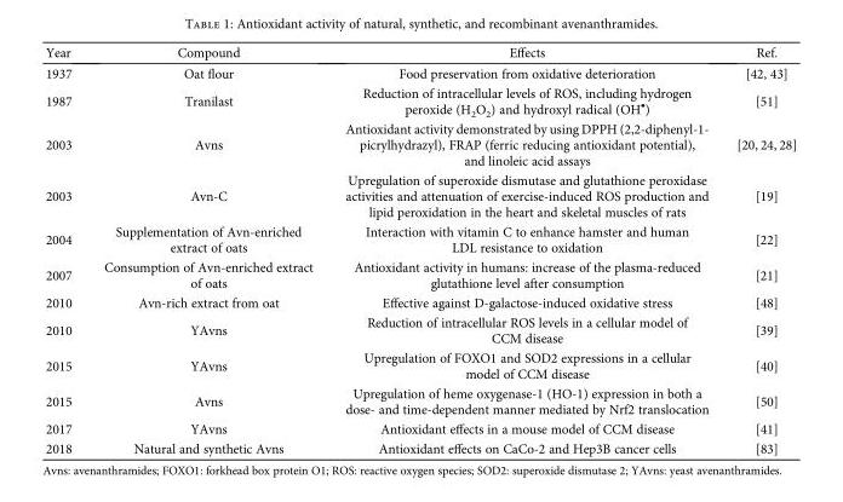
<table><thead><tr><td>Year</td><td>Compound</td><td>Effects</td><td>Ref.</td></tr></thead><tbody><tr><td>1937</td><td>Oat flour</td><td>Food preservation from oxidative deterioration</td><td>[42, 43]</td></tr><tr><td>1987</td><td>Tranilast</td><td>Reduction of intracellular levels of ROS, including hydrogen peroxide (H<sub>2</sub>O<sub>2</sub>) and hydroxyl radical (OH<sup>•</sup>)</td><td>[51]</td></tr><tr><td>2003</td><td>Avns</td><td>Antioxidant activity demonstrated by using DPPH (2,2-diphenyl-1- picrylhydrazyl), FRAP (ferric reducing antioxidant potential), and linoleic acid assays</td><td>[20, 24, 28]</td></tr><tr><td>2003</td><td>Avn-C</td><td>Upregulation of superoxide dismutase and glutathione peroxidase activities and attenuation of exercise-induced ROS production and lipid peroxidation in the heart and skeletal muscles of rats</td><td>[19]</td></tr><tr><td>2004</td><td>Supplementation of Avn-enriched extract of oats</td><td>Interaction with vitamin C to enhance hamster and human LDL resistance to oxidation</td><td>[22]</td></tr><tr><td>2007</td><td>Consumption of Avn-enriched extract of oats</td><td>Antioxidant activity in humans: increase of the plasma-reduced glutathione level after consumption</td><td>[21]</td></tr><tr><td>2010</td><td>Avn-rich extract from oat</td><td>Effective against D-galactose-induced oxidative stress</td><td>[48]</td></tr><tr><td>2010</td><td>YAvns</td><td>Reduction of intracellular ROS levels in a cellular model of CCM disease</td><td>[39]</td></tr><tr><td>2015</td><td>YAvns</td><td>Upregulation of FOXO1 and SOD2 expressions in a cellular model of CCM disease</td><td>[40]</td></tr><tr><td>2015</td><td>Avns</td><td>Upregulation of heme oxygenase-1 (HO-1) expression in both a dose- and time-dependent manner mediated by Nrf2 translocation</td><td>[50]</td></tr><tr><td>2017</td><td>YAvns</td><td>Antioxidant effects in a mouse model of CCM disease</td><td>[41]</td></tr><tr><td>2018</td><td>Natural and synthetic Avns</td><td>Antioxidant effects on CaCo-2 and Hep3B cancer cells</td><td>[83]</td></tr></tbody></table>